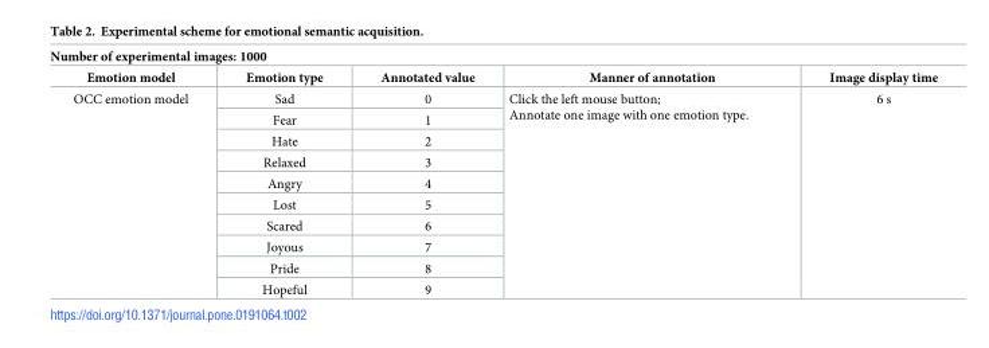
<table><thead><tr><td colspan="5">Number of experimental images: 1000</td></tr><tr><td>Emotion model</td><td>Emotion type</td><td>Annotated value</td><td>Manner of annotation</td><td>Image display time</td></tr></thead><tbody><tr><td rowspan="10">OCC emotion model</td><td>Sad</td><td>0</td><td rowspan="10">Click the left mouse button; Annotate one image with one emotion type.</td><td rowspan="10">6 s</td></tr><tr><td>Fear</td><td>1</td></tr><tr><td>Hate</td><td>2</td></tr><tr><td>Relaxed</td><td>3</td></tr><tr><td>Angry</td><td>4</td></tr><tr><td>Lost</td><td>5</td></tr><tr><td>Scared</td><td>6</td></tr><tr><td>Joyous</td><td>7</td></tr><tr><td>Pride</td><td>8</td></tr><tr><td>Hopeful</td><td>9</td></tr></tbody></table>